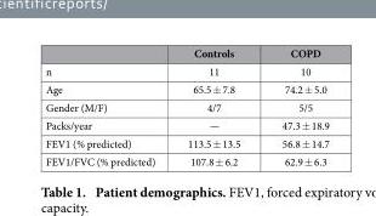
<table><thead><tr><td></td><td>Controls</td><td>COPD</td></tr></thead><tbody><tr><td>n</td><td>11</td><td>10</td></tr><tr><td>Age</td><td>65.5 ± 7.8</td><td>74.2 ± 5.0</td></tr><tr><td>Gender (M/F)</td><td>4/7</td><td>5/5</td></tr><tr><td>Packs/year</td><td>—</td><td>47.3 ± 18.9</td></tr><tr><td>FEV1 (% predicted)</td><td>113.5 ± 13.5</td><td>56.8 ± 14.7</td></tr><tr><td>FEV1/FVC (% predicted)</td><td>107.8 ± 6.2</td><td>62.9 ± 6.3</td></tr></tbody></table>